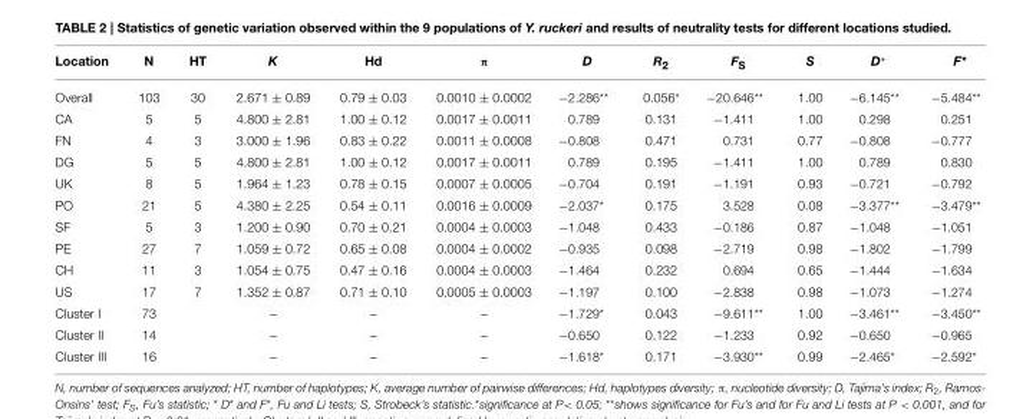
<table><thead><tr><td>Location</td><td>N</td><td>HT</td><td>K</td><td>Hd</td><td>π</td><td>D</td><td>R<sub>2</sub></td><td>F<sub>S</sub></td><td>S</td><td>D*</td><td>F*</td></tr></thead><tbody><tr><td>Overall</td><td>103</td><td>30</td><td>2.671 ± 0.89</td><td>0.79 ± 0.03</td><td>0.0010 ± 0.0002</td><td>−2.286**</td><td>0.056*</td><td>−20.646**</td><td>1.00</td><td>−6.145**</td><td>−5.484**</td></tr><tr><td>CA</td><td>5</td><td>5</td><td>4.800 ± 2.81</td><td>1.00 ± 0.12</td><td>0.0017 ± 0.0011</td><td>0.789</td><td>0.131</td><td>−1.411</td><td>1.00</td><td>0.298</td><td>0.251</td></tr><tr><td>FN</td><td>4</td><td>3</td><td>3.000 ± 1.96</td><td>0.83 ± 0.22</td><td>0.0011 ± 0.0008</td><td>−0.808</td><td>0.471</td><td>0.731</td><td>0.77</td><td>−0.808</td><td>−0.777</td></tr><tr><td>DG</td><td>5</td><td>5</td><td>4.800 ± 2.81</td><td>1.00 ± 0.12</td><td>0.0017 ± 0.0011</td><td>0.789</td><td>0.195</td><td>−1.411</td><td>1.00</td><td>0.789</td><td>0.830</td></tr><tr><td>UK</td><td>8</td><td>5</td><td>1.964 ± 1.23</td><td>0.78 ± 0.15</td><td>0.0007 ± 0.0005</td><td>−0.704</td><td>0.191</td><td>−1.191</td><td>0.93</td><td>−0.721</td><td>−0.792</td></tr><tr><td>PO</td><td>21</td><td>5</td><td>4.380 ± 2.25</td><td>0.54 ± 0.11</td><td>0.0016 ± 0.0009</td><td>−2.037*</td><td>0.175</td><td>3.528</td><td>0.08</td><td>−3.377**</td><td>−3.479**</td></tr><tr><td>SF</td><td>5</td><td>3</td><td>1.200 ± 0.90</td><td>0.70 ± 0.21</td><td>0.0004 ± 0.0003</td><td>−1.048</td><td>0.433</td><td>−0.186</td><td>0.87</td><td>−1.048</td><td>−1.051</td></tr><tr><td>PE</td><td>27</td><td>7</td><td>1.059 ± 0.72</td><td>0.65 ± 0.08</td><td>0.0004 ± 0.0002</td><td>−0.935</td><td>0.098</td><td>−2.719</td><td>0.98</td><td>−1.802</td><td>−1.799</td></tr><tr><td>CH</td><td>11</td><td>3</td><td>1.054 ± 0.75</td><td>0.47 ± 0.16</td><td>0.0004 ± 0.0003</td><td>−1.464</td><td>0.232</td><td>0.694</td><td>0.65</td><td>−1.444</td><td>−1.634</td></tr><tr><td>US</td><td>17</td><td>7</td><td>1.352 ± 0.87</td><td>0.71 ± 0.10</td><td>0.0005 ± 0.0003</td><td>−1.197</td><td>0.100</td><td>−2.838</td><td>0.98</td><td>−1.073</td><td>−1.274</td></tr><tr><td>Cluster I</td><td>73</td><td></td><td>–</td><td>–</td><td>–</td><td>−1.729*</td><td>0.043</td><td>−9.611**</td><td>1.00</td><td>−3.461**</td><td>−3.450**</td></tr><tr><td>Cluster II</td><td>14</td><td></td><td>–</td><td>–</td><td>–</td><td>−0.650</td><td>0.122</td><td>−1.233</td><td>0.92</td><td>−0.650</td><td>−0.965</td></tr><tr><td>Cluster III</td><td>16</td><td></td><td>–</td><td>–</td><td>–</td><td>−1.618*</td><td>0.171</td><td>−3.930**</td><td>0.99</td><td>−2.465*</td><td>−2.592*</td></tr></tbody></table>